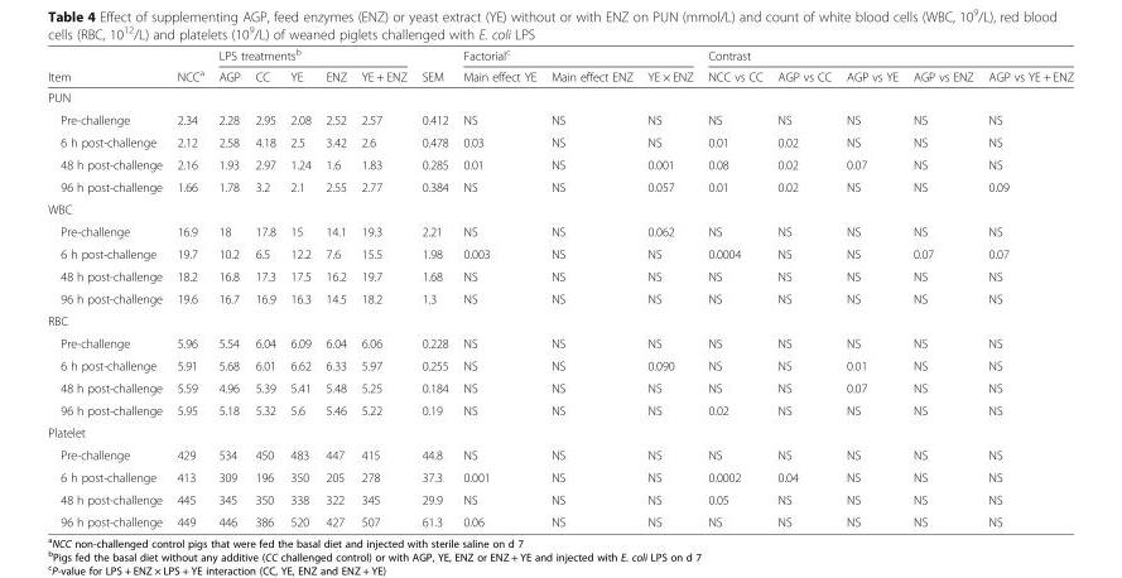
<table><thead><tr><td rowspan="2">Item</td><td rowspan="2">NCC<sup>a</sup></td><td colspan="5">LPS treatments<sup>b</sup></td><td rowspan="2">SEM</td><td colspan="3">Factorial<sup>c</sup></td><td colspan="5">Contrast</td></tr><tr><td>AGP</td><td>CC</td><td>YE</td><td>ENZ</td><td>YE + ENZ</td><td>Main effect YE</td><td>Main effect ENZ</td><td>YE × ENZ</td><td>NCC vs CC</td><td>AGP vs CC</td><td>AGP vs YE</td><td>AGP vs ENZ</td><td>AGP vs YE + ENZ</td></tr></thead><tbody><tr><td colspan="16">PUN</td></tr><tr><td>Pre-challenge</td><td>2.34</td><td>2.28</td><td>2.95</td><td>2.08</td><td>2.52</td><td>2.57</td><td>0.412</td><td>NS</td><td>NS</td><td>NS</td><td>NS</td><td>NS</td><td>NS</td><td>NS</td><td>NS</td></tr><tr><td>6 h post-challenge</td><td>2.12</td><td>2.58</td><td>4.18</td><td>2.5</td><td>3.42</td><td>2.6</td><td>0.478</td><td>0.03</td><td>NS</td><td>NS</td><td>0.01</td><td>0.02</td><td>NS</td><td>NS</td><td>NS</td></tr><tr><td>48 h post-challenge</td><td>2.16</td><td>1.93</td><td>2.97</td><td>1.24</td><td>1.6</td><td>1.83</td><td>0.285</td><td>0.01</td><td>NS</td><td>0.001</td><td>0.08</td><td>0.02</td><td>0.07</td><td>NS</td><td>NS</td></tr><tr><td>96 h post-challenge</td><td>1.66</td><td>1.78</td><td>3.2</td><td>2.1</td><td>2.55</td><td>2.77</td><td>0.384</td><td>NS</td><td>NS</td><td>0.057</td><td>0.01</td><td>0.02</td><td>NS</td><td>NS</td><td>0.09</td></tr><tr><td colspan="16">WBC</td></tr><tr><td>Pre-challenge</td><td>16.9</td><td>18</td><td>17.8</td><td>15</td><td>14.1</td><td>19.3</td><td>2.21</td><td>NS</td><td>NS</td><td>0.062</td><td>NS</td><td>NS</td><td>NS</td><td>NS</td><td>NS</td></tr><tr><td>6 h post-challenge</td><td>19.7</td><td>10.2</td><td>6.5</td><td>12.2</td><td>7.6</td><td>15.5</td><td>1.98</td><td>0.003</td><td>NS</td><td>NS</td><td>0.0004</td><td>NS</td><td>NS</td><td>0.07</td><td>0.07</td></tr><tr><td>48 h post-challenge</td><td>18.2</td><td>16.8</td><td>17.3</td><td>17.5</td><td>16.2</td><td>19.7</td><td>1.68</td><td>NS</td><td>NS</td><td>NS</td><td>NS</td><td>NS</td><td>NS</td><td>NS</td><td>NS</td></tr><tr><td>96 h post-challenge</td><td>19.6</td><td>16.7</td><td>16.9</td><td>16.3</td><td>14.5</td><td>18.2</td><td>1.3</td><td>NS</td><td>NS</td><td>NS</td><td>NS</td><td>NS</td><td>NS</td><td>NS</td><td>NS</td></tr><tr><td colspan="16">RBC</td></tr><tr><td>Pre-challenge</td><td>5.96</td><td>5.54</td><td>6.04</td><td>6.09</td><td>6.04</td><td>6.06</td><td>0.228</td><td>NS</td><td>NS</td><td>NS</td><td>NS</td><td>NS</td><td>NS</td><td>NS</td><td>NS</td></tr><tr><td>6 h post-challenge</td><td>5.91</td><td>5.68</td><td>6.01</td><td>6.62</td><td>6.33</td><td>5.97</td><td>0.255</td><td>NS</td><td>NS</td><td>0.090</td><td>NS</td><td>NS</td><td>0.01</td><td>NS</td><td>NS</td></tr><tr><td>48 h post-challenge</td><td>5.59</td><td>4.96</td><td>5.39</td><td>5.41</td><td>5.48</td><td>5.25</td><td>0.184</td><td>NS</td><td>NS</td><td>NS</td><td>NS</td><td>NS</td><td>0.07</td><td>NS</td><td>NS</td></tr><tr><td>96 h post-challenge</td><td>5.95</td><td>5.18</td><td>5.32</td><td>5.6</td><td>5.46</td><td>5.22</td><td>0.19</td><td>NS</td><td>NS</td><td>NS</td><td>0.02</td><td>NS</td><td>NS</td><td>NS</td><td>NS</td></tr><tr><td colspan="16">Platelet</td></tr><tr><td>Pre-challenge</td><td>429</td><td>534</td><td>450</td><td>483</td><td>447</td><td>415</td><td>44.8</td><td>NS</td><td>NS</td><td>NS</td><td>NS</td><td>NS</td><td>NS</td><td>NS</td><td>NS</td></tr><tr><td>6 h post-challenge</td><td>413</td><td>309</td><td>196</td><td>350</td><td>205</td><td>278</td><td>37.3</td><td>0.001</td><td>NS</td><td>NS</td><td>0.0002</td><td>0.04</td><td>NS</td><td>NS</td><td>NS</td></tr><tr><td>48 h post-challenge</td><td>445</td><td>345</td><td>350</td><td>338</td><td>322</td><td>345</td><td>29.9</td><td>NS</td><td>NS</td><td>NS</td><td>0.05</td><td>NS</td><td>NS</td><td>NS</td><td>NS</td></tr><tr><td>96 h post-challenge</td><td>449</td><td>446</td><td>386</td><td>520</td><td>427</td><td>507</td><td>61.3</td><td>0.06</td><td>NS</td><td>NS</td><td>NS</td><td>NS</td><td>NS</td><td>NS</td><td>NS</td></tr></tbody></table>